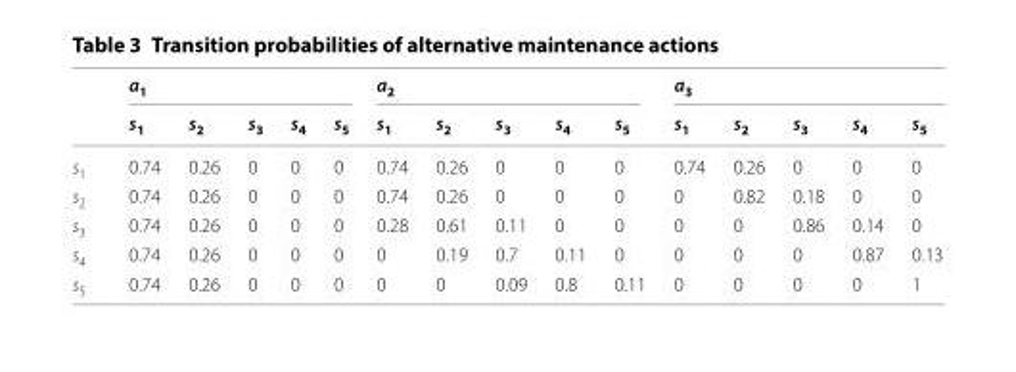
<table><thead><tr><td rowspan="2"></td><td colspan="5">a<sub>1</sub></td><td colspan="5">a<sub>2</sub></td><td colspan="5">a<sub>3</sub></td></tr><tr><td>s<sub>1</sub></td><td>s<sub>2</sub></td><td>s<sub>3</sub></td><td>s<sub>4</sub></td><td>s<sub>5</sub></td><td>s<sub>1</sub></td><td>s<sub>2</sub></td><td>s<sub>3</sub></td><td>s<sub>4</sub></td><td>s<sub>5</sub></td><td>s<sub>1</sub></td><td>s<sub>2</sub></td><td>s<sub>3</sub></td><td>s<sub>4</sub></td><td>s<sub>5</sub></td></tr></thead><tbody><tr><td>s<sub>1</sub></td><td>0.74</td><td>0.26</td><td>0</td><td>0</td><td>0</td><td>0.74</td><td>0.26</td><td>0</td><td>0</td><td>0</td><td>0.74</td><td>0.26</td><td>0</td><td>0</td><td>0</td></tr><tr><td>s<sub>2</sub></td><td>0.74</td><td>0.26</td><td>0</td><td>0</td><td>0</td><td>0.74</td><td>0.26</td><td>0</td><td>0</td><td>0</td><td>0</td><td>0.82</td><td>0.18</td><td>0</td><td>0</td></tr><tr><td>s<sub>3</sub></td><td>0.74</td><td>0.26</td><td>0</td><td>0</td><td>0</td><td>0.28</td><td>0.61</td><td>0.11</td><td>0</td><td>0</td><td>0</td><td>0</td><td>0.86</td><td>0.14</td><td>0</td></tr><tr><td>s<sub>4</sub></td><td>0.74</td><td>0.26</td><td>0</td><td>0</td><td>0</td><td>0</td><td>0.19</td><td>0.7</td><td>0.11</td><td>0</td><td>0</td><td>0</td><td>0</td><td>0.87</td><td>0.13</td></tr><tr><td>s<sub>5</sub></td><td>0.74</td><td>0.26</td><td>0</td><td>0</td><td>0</td><td>0</td><td>0</td><td>0.09</td><td>0.8</td><td>0.11</td><td>0</td><td>0</td><td>0</td><td>0</td><td>1</td></tr></tbody></table>